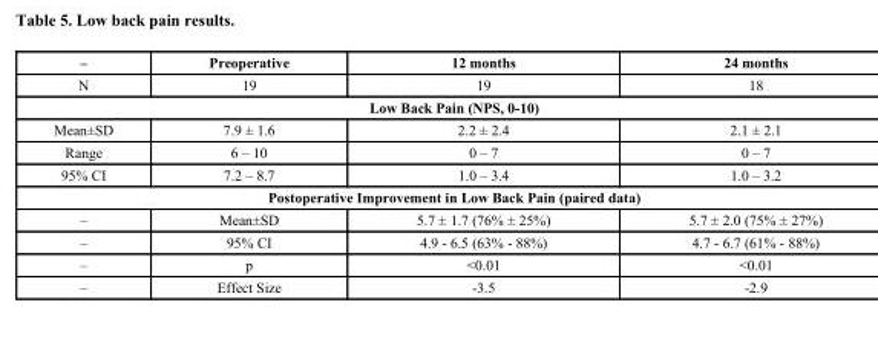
<table><thead><tr><td>–</td><td>Preoperative</td><td>12 months</td><td>24 months</td></tr></thead><tbody><tr><td>N</td><td>19</td><td>19</td><td>18</td></tr><tr><td colspan="4">Low Back Pain (NPS, 0-10)</td></tr><tr><td>Mean±SD</td><td>7.9 ± 1.6</td><td>2.2 ± 2.4</td><td>2.1 ± 2.1</td></tr><tr><td>Range</td><td>6 – 10</td><td>0 – 7</td><td>0 – 7</td></tr><tr><td>95% CI</td><td>7.2 – 8.7</td><td>1.0 – 3.4</td><td>1.0 – 3.2</td></tr><tr><td colspan="4">Postoperative Improvement in Low Back Pain (paired data)</td></tr><tr><td>–</td><td>Mean±SD</td><td>5.7 ± 1.7 (76% ± 25%)</td><td>5.7 ± 2.0 (75% ± 27%)</td></tr><tr><td>–</td><td>95% CI</td><td>4.9 - 6.5 (63% - 88%)</td><td>4.7 - 6.7 (61% - 88%)</td></tr><tr><td>–</td><td>p</td><td>&lt;0.01</td><td>&lt;0.01</td></tr><tr><td>–</td><td>Effect Size</td><td>-3.5</td><td>-2.9</td></tr></tbody></table>